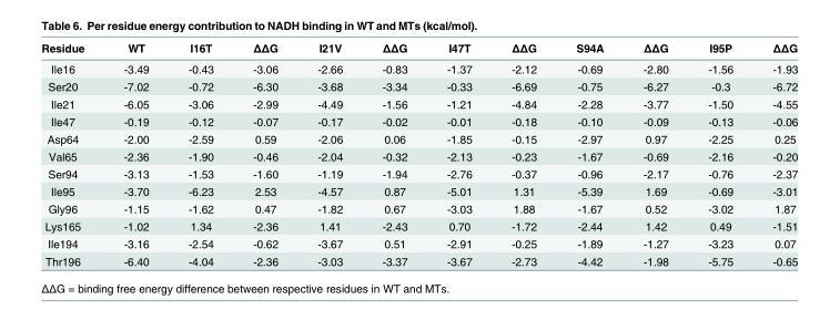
<table><thead><tr><td>Residue</td><td>WT</td><td>I16T</td><td>ΔΔG</td><td>I21V</td><td>ΔΔG</td><td>I47T</td><td>ΔΔG</td><td>S94A</td><td>ΔΔG</td><td>I95P</td><td>ΔΔG</td></tr></thead><tbody><tr><td>Ile16</td><td>-3.49</td><td>-0.43</td><td>-3.06</td><td>-2.66</td><td>-0.83</td><td>-1.37</td><td>-2.12</td><td>-0.69</td><td>-2.80</td><td>-1.56</td><td>-1.93</td></tr><tr><td>Ser20</td><td>-7.02</td><td>-0.72</td><td>-6.30</td><td>-3.68</td><td>-3.34</td><td>-0.33</td><td>-6.69</td><td>-0.75</td><td>-6.27</td><td>-0.3</td><td>-6.72</td></tr><tr><td>Ile21</td><td>-6.05</td><td>-3.06</td><td>-2.99</td><td>-4.49</td><td>-1.56</td><td>-1.21</td><td>-4.84</td><td>-2.28</td><td>-3.77</td><td>-1.50</td><td>-4.55</td></tr><tr><td>Ile47</td><td>-0.19</td><td>-0.12</td><td>-0.07</td><td>-0.17</td><td>-0.02</td><td>-0.01</td><td>-0.18</td><td>-0.10</td><td>-0.09</td><td>-0.13</td><td>-0.06</td></tr><tr><td>Asp64</td><td>-2.00</td><td>-2.59</td><td>0.59</td><td>-2.06</td><td>0.06</td><td>-1.85</td><td>-0.15</td><td>-2.97</td><td>0.97</td><td>-2.25</td><td>0.25</td></tr><tr><td>Val65</td><td>-2.36</td><td>-1.90</td><td>-0.46</td><td>-2.04</td><td>-0.32</td><td>-2.13</td><td>-0.23</td><td>-1.67</td><td>-0.69</td><td>-2.16</td><td>-0.20</td></tr><tr><td>Ser94</td><td>-3.13</td><td>-1.53</td><td>-1.60</td><td>-1.19</td><td>-1.94</td><td>-2.76</td><td>-0.37</td><td>-0.96</td><td>-2.17</td><td>-0.76</td><td>-2.37</td></tr><tr><td>Ile95</td><td>-3.70</td><td>-6.23</td><td>2.53</td><td>-4.57</td><td>0.87</td><td>-5.01</td><td>1.31</td><td>-5.39</td><td>1.69</td><td>-0.69</td><td>-3.01</td></tr><tr><td>Gly96</td><td>-1.15</td><td>-1.62</td><td>0.47</td><td>-1.82</td><td>0.67</td><td>-3.03</td><td>1.88</td><td>-1.67</td><td>0.52</td><td>-3.02</td><td>1.87</td></tr><tr><td>Lys165</td><td>-1.02</td><td>1.34</td><td>-2.36</td><td>1.41</td><td>-2.43</td><td>0.70</td><td>-1.72</td><td>-2.44</td><td>1.42</td><td>0.49</td><td>-1.51</td></tr><tr><td>Ile194</td><td>-3.16</td><td>-2.54</td><td>-0.62</td><td>-3.67</td><td>0.51</td><td>-2.91</td><td>-0.25</td><td>-1.89</td><td>-1.27</td><td>-3.23</td><td>0.07</td></tr><tr><td>Thr196</td><td>-6.40</td><td>-4.04</td><td>-2.36</td><td>-3.03</td><td>-3.37</td><td>-3.67</td><td>-2.73</td><td>-4.42</td><td>-1.98</td><td>-5.75</td><td>-0.65</td></tr></tbody></table>